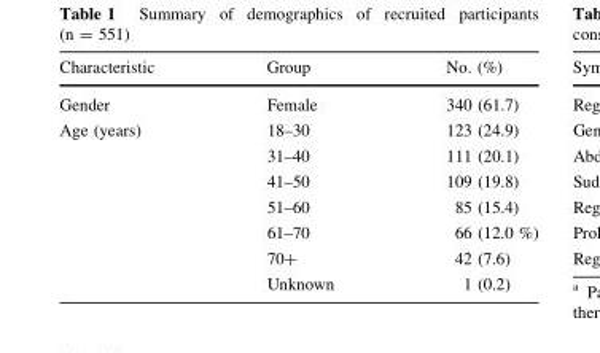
<table><thead><tr><td>Characteristic</td><td>Group</td><td>No. (%)</td></tr></thead><tbody><tr><td>Gender</td><td>Female</td><td>340 (61.7)</td></tr><tr><td rowspan="7">Age (years)</td><td>18–30</td><td>123 (24.9)</td></tr><tr><td>31–40</td><td>111 (20.1)</td></tr><tr><td>41–50</td><td>109 (19.8)</td></tr><tr><td>51–60</td><td>85 (15.4)</td></tr><tr><td>61–70</td><td>66 (12.0 %)</td></tr><tr><td>70+</td><td>42 (7.6)</td></tr><tr><td>Unknown</td><td>1 (0.2)</td></tr></tbody></table>